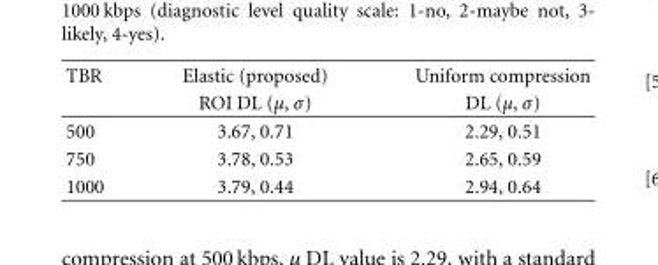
<table><thead><tr><td rowspan="2">TBR</td><td rowspan="2">Elastic (proposed) ROI DL (μ, σ)</td><td rowspan="2">Uniform compression DL (μ, σ)</td></tr><tr></tr></thead><tbody><tr><td>500</td><td>3.67, 0.71</td><td>2.29, 0.51</td></tr><tr><td>750</td><td>3.78, 0.53</td><td>2.65, 0.59</td></tr><tr><td>1000</td><td>3.79, 0.44</td><td>2.94, 0.64</td></tr></tbody></table>